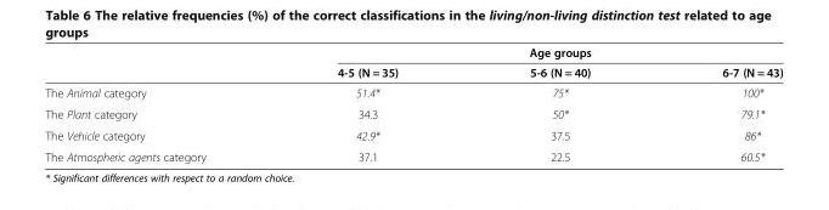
<table><thead><tr><td rowspan="2"></td><td colspan="3">Age groups</td></tr><tr><td>4-5 (N = 35)</td><td>5-6 (N = 40)</td><td>6-7 (N = 43)</td></tr></thead><tbody><tr><td>The Animal category</td><td>51.4*</td><td>75*</td><td>100*</td></tr><tr><td>The Plant category</td><td>34.3</td><td>50*</td><td>79.1*</td></tr><tr><td>The Vehicle category</td><td>42.9*</td><td>37.5</td><td>86*</td></tr><tr><td>The Atmospheric agents category</td><td>37.1</td><td>22.5</td><td>60.5*</td></tr></tbody></table>